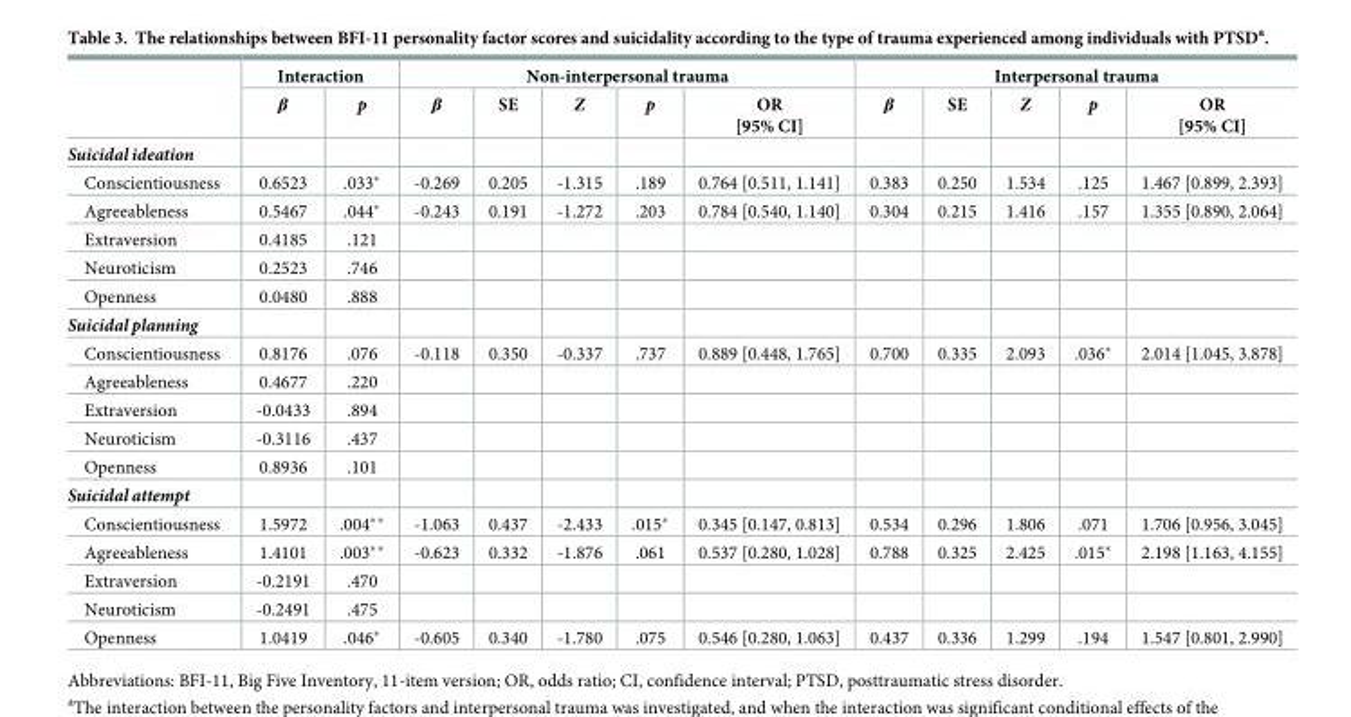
<table><thead><tr><td rowspan="2"></td><td colspan="2">Interaction</td><td colspan="5">Non-interpersonal trauma</td><td colspan="5">Interpersonal trauma</td></tr><tr><td>β</td><td>p</td><td>β</td><td>SE</td><td>Z</td><td>p</td><td>OR [95% CI]</td><td>β</td><td>SE</td><td>Z</td><td>p</td><td>OR [95% CI]</td></tr></thead><tbody><tr><td colspan="13">Suicidal ideation</td></tr><tr><td>Conscientiousness</td><td>0.6523</td><td>.033*</td><td>-0.269</td><td>0.205</td><td>-1.315</td><td>.189</td><td>0.764 [0.511, 1.141]</td><td>0.383</td><td>0.250</td><td>1.534</td><td>.125</td><td>1.467 [0.899, 2.393]</td></tr><tr><td>Agreeableness</td><td>0.5467</td><td>.044*</td><td>-0.243</td><td>0.191</td><td>-1.272</td><td>.203</td><td>0.784 [0.540, 1.140]</td><td>0.304</td><td>0.215</td><td>1.416</td><td>.157</td><td>1.355 [0.890, 2.064]</td></tr><tr><td>Extraversion</td><td>0.4185</td><td>.121</td><td></td><td></td><td></td><td></td><td></td><td></td><td></td><td></td><td></td><td></td></tr><tr><td>Neuroticism</td><td>0.2523</td><td>.746</td><td></td><td></td><td></td><td></td><td></td><td></td><td></td><td></td><td></td><td></td></tr><tr><td>Openness</td><td>0.0480</td><td>.888</td><td></td><td></td><td></td><td></td><td></td><td></td><td></td><td></td><td></td><td></td></tr><tr><td colspan="13">Suicidal planning</td></tr><tr><td>Conscientiousness</td><td>0.8176</td><td>.076</td><td>-0.118</td><td>0.350</td><td>-0.337</td><td>.737</td><td>0.889 [0.448, 1.765]</td><td>0.700</td><td>0.335</td><td>2.093</td><td>.036*</td><td>2.014 [1.045, 3.878]</td></tr><tr><td>Agreeableness</td><td>0.4677</td><td>.220</td><td></td><td></td><td></td><td></td><td></td><td></td><td></td><td></td><td></td><td></td></tr><tr><td>Extraversion</td><td>-0.0433</td><td>.894</td><td></td><td></td><td></td><td></td><td></td><td></td><td></td><td></td><td></td><td></td></tr><tr><td>Neuroticism</td><td>-0.3116</td><td>.437</td><td></td><td></td><td></td><td></td><td></td><td></td><td></td><td></td><td></td><td></td></tr><tr><td>Openness</td><td>0.8936</td><td>.101</td><td></td><td></td><td></td><td></td><td></td><td></td><td></td><td></td><td></td><td></td></tr><tr><td colspan="13">Suicidal attempt</td></tr><tr><td>Conscientiousness</td><td>1.5972</td><td>.004**</td><td>-1.063</td><td>0.437</td><td>-2.433</td><td>.015*</td><td>0.345 [0.147, 0.813]</td><td>0.534</td><td>0.296</td><td>1.806</td><td>.071</td><td>1.706 [0.956, 3.045]</td></tr><tr><td>Agreeableness</td><td>1.4101</td><td>.003**</td><td>-0.623</td><td>0.332</td><td>-1.876</td><td>.061</td><td>0.537 [0.280, 1.028]</td><td>0.788</td><td>0.325</td><td>2.425</td><td>.015*</td><td>2.198 [1.163, 4.155]</td></tr><tr><td>Extraversion</td><td>-0.2191</td><td>.470</td><td></td><td></td><td></td><td></td><td></td><td></td><td></td><td></td><td></td><td></td></tr><tr><td>Neuroticism</td><td>-0.2491</td><td>.475</td><td></td><td></td><td></td><td></td><td></td><td></td><td></td><td></td><td></td><td></td></tr><tr><td>Openness</td><td>1.0419</td><td>.046*</td><td>-0.605</td><td>0.340</td><td>-1.780</td><td>.075</td><td>0.546 [0.280, 1.063]</td><td>0.437</td><td>0.336</td><td>1.299</td><td>.194</td><td>1.547 [0.801, 2.990]</td></tr></tbody></table>